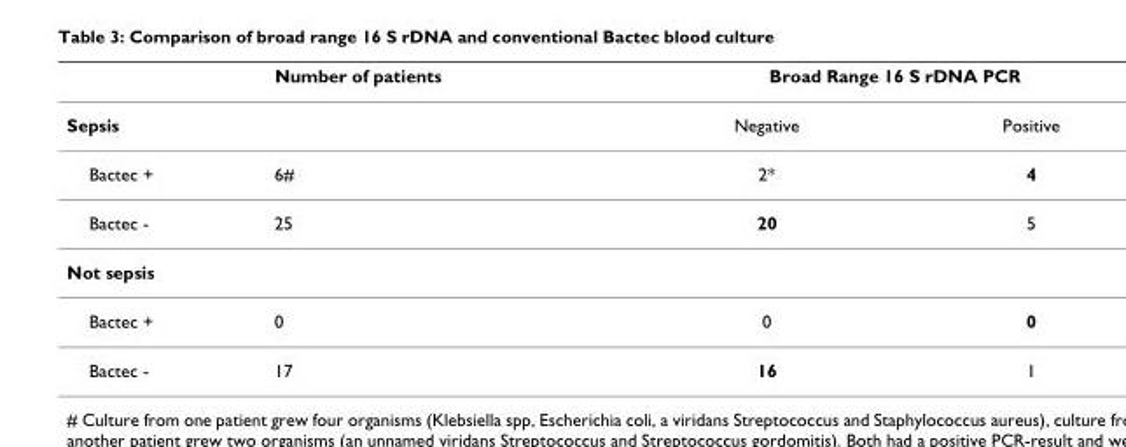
<table><thead><tr><td rowspan="2">Sepsis</td><td rowspan="2">Number of patients</td><td colspan="2">Broad Range 16 S rDNA PCR</td></tr><tr><td>Negative</td><td>Positive</td></tr></thead><tbody><tr><td>Bactec +</td><td>6#</td><td>2*</td><td>4</td></tr><tr><td>Bactec -</td><td>25</td><td>20</td><td>5</td></tr><tr><td colspan="4">Not sepsis</td></tr><tr><td>Bactec +</td><td>0</td><td>0</td><td>0</td></tr><tr><td>Bactec -</td><td>17</td><td>16</td><td>1</td></tr></tbody></table>